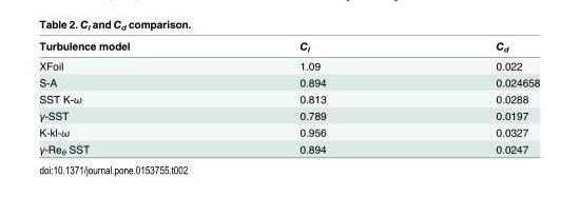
<table><thead><tr><td>Turbulence model</td><td>C<sub>l</sub></td><td>C<sub>d</sub></td></tr></thead><tbody><tr><td>XFoil</td><td>1.09</td><td>0.022</td></tr><tr><td>S-A</td><td>0.894</td><td>0.024658</td></tr><tr><td>SST K-ω</td><td>0.813</td><td>0.0288</td></tr><tr><td>γ-SST</td><td>0.789</td><td>0.0197</td></tr><tr><td>K-kl-ω</td><td>0.956</td><td>0.0327</td></tr><tr><td>γ-Re<sub>θ</sub> SST</td><td>0.894</td><td>0.0247</td></tr></tbody></table>